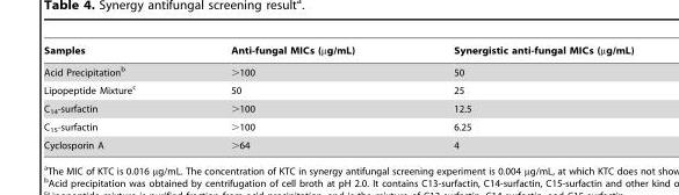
<table><thead><tr><td>Samples</td><td>Anti-fungal MICs (µg/mL)</td><td>Synergistic anti-fungal MICs (µg/mL)</td></tr></thead><tbody><tr><td>Acid Precipitation<sup>b</sup></td><td>&gt;100</td><td>50</td></tr><tr><td>Lipopeptide Mixture<sup>c</sup></td><td>50</td><td>25</td></tr><tr><td>C<sub>14</sub>-surfactin</td><td>&gt;100</td><td>12.5</td></tr><tr><td>C<sub>15</sub>-surfactin</td><td>&gt;100</td><td>6.25</td></tr><tr><td>Cyclosporin A</td><td>&gt;64</td><td>4</td></tr></tbody></table>